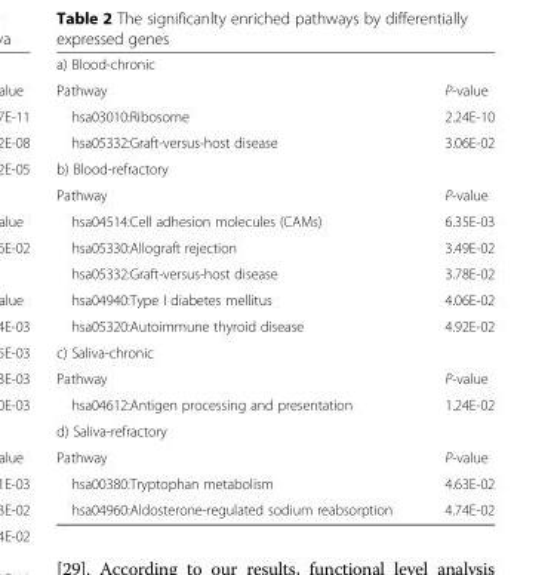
<table><tbody><tr><td colspan="2">a) Blood-chronic</td></tr><tr><td>Pathway</td><td>P-value</td></tr><tr><td>hsa03010:Ribosome</td><td>2.24E-10</td></tr><tr><td>hsa05332:Graft-versus-host disease</td><td>3.06E-02</td></tr><tr><td colspan="2">b) Blood-refractory</td></tr><tr><td>Pathway</td><td>P-value</td></tr><tr><td>hsa04514:Cell adhesion molecules (CAMs)</td><td>6.35E-03</td></tr><tr><td>hsa05330:Allograft rejection</td><td>3.49E-02</td></tr><tr><td>hsa05332:Graft-versus-host disease</td><td>3.78E-02</td></tr><tr><td>hsa04940:Type I diabetes mellitus</td><td>4.06E-02</td></tr><tr><td>hsa05320:Autoimmune thyroid disease</td><td>4.92E-02</td></tr><tr><td colspan="2">c) Saliva-chronic</td></tr><tr><td>Pathway</td><td>P-value</td></tr><tr><td>hsa04612:Antigen processing and presentation</td><td>1.24E-02</td></tr><tr><td colspan="2">d) Saliva-refractory</td></tr><tr><td>Pathway</td><td>P-value</td></tr><tr><td>hsa00380:Tryptophan metabolism</td><td>4.63E-02</td></tr><tr><td>hsa04960:Aldosterone-regulated sodium reabsorption</td><td>4.74E-02</td></tr></tbody></table>